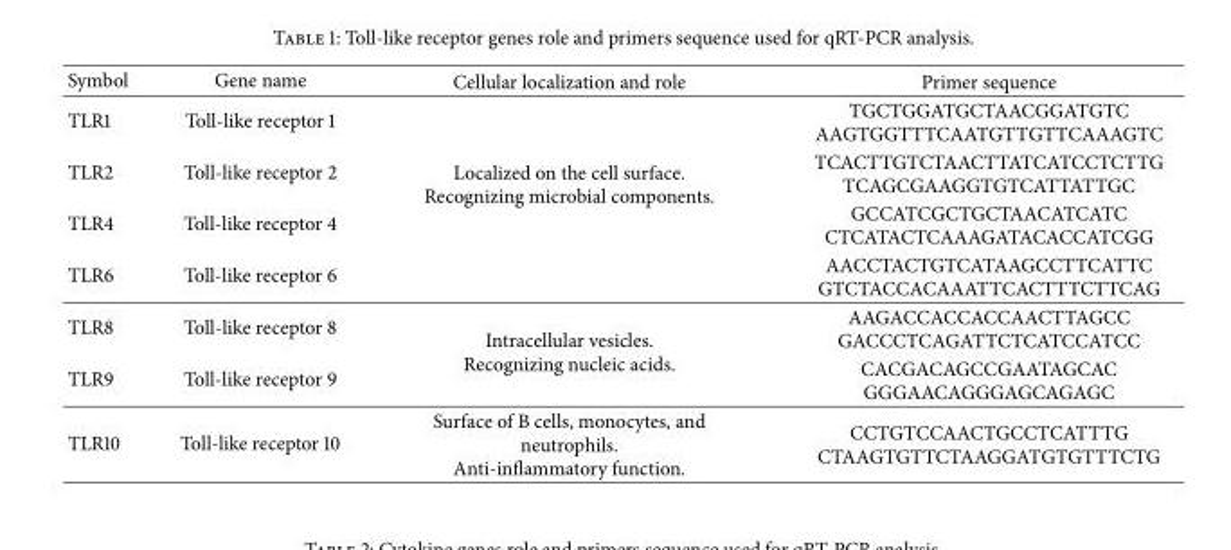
<table><thead><tr><td>Symbol</td><td>Gene name</td><td>Cellular localization and role</td><td>Primer sequence</td></tr></thead><tbody><tr><td>TLR1</td><td>Toll-like receptor 1</td><td rowspan="4">Localized on the cell surface. Recognizing microbial components.</td><td>TGCTGGATGCTAACGGATGTC AAGTGGTTTCAATGTTGTTCAAAGTC</td></tr><tr><td>TLR2</td><td>Toll-like receptor 2</td><td>TCACTTGTCTAACTTATCATCCTCTTG TCAGCGAAGGTGTCATTATTGC</td></tr><tr><td>TLR4</td><td>Toll-like receptor 4</td><td>GCCATCGCTGCTAACATCATC CTCATACTCAAAGATACACCATCGG</td></tr><tr><td>TLR6</td><td>Toll-like receptor 6</td><td>AACCTACTGTCATAAGCCTTCATTC GTCTACCACAAATTCACTTTCTTCAG</td></tr><tr><td>TLR8</td><td>Toll-like receptor 8</td><td rowspan="2">Intracellular vesicles. Recognizing nucleic acids.</td><td>AAGACCACCACCAACTTAGCC GACCCTCAGATTCTCATCCATCC</td></tr><tr><td>TLR9</td><td>Toll-like receptor 9</td><td>CACGACAGCCGAATAGCAC GGGAACAGGGAGCAGAGC</td></tr><tr><td>TLR10</td><td>Toll-like receptor 10</td><td>Surface of B cells, monocytes, and neutrophils. Anti-inflammatory function.</td><td>CCTGTCCAACTGCCTCATTTG CTAAGTGTTCTAAGGATGTGTTTCTG</td></tr></tbody></table>